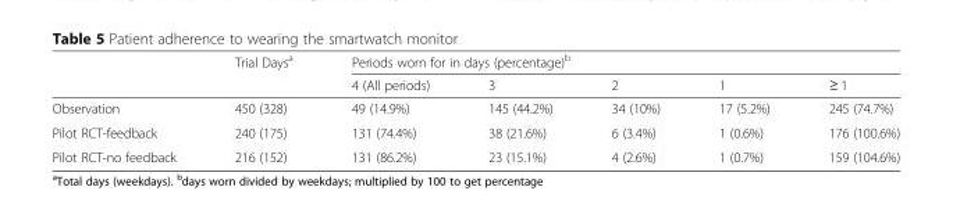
<table><thead><tr><td rowspan="2"></td><td rowspan="2">Trial Days<sup>a</sup></td><td colspan="5">Periods worn for in days (percentage)<sup>b</sup></td></tr><tr><td>4 (All periods)</td><td>3</td><td>2</td><td>1</td><td>≥ 1</td></tr></thead><tbody><tr><td>Observation</td><td>450 (328)</td><td>49 (14.9%)</td><td>145 (44.2%)</td><td>34 (10%)</td><td>17 (5.2%)</td><td>245 (74.7%)</td></tr><tr><td>Pilot RCT-feedback</td><td>240 (175)</td><td>131 (74.4%)</td><td>38 (21.6%)</td><td>6 (3.4%)</td><td>1 (0.6%)</td><td>176 (100.6%)</td></tr><tr><td>Pilot RCT-no feedback</td><td>216 (152)</td><td>131 (86.2%)</td><td>23 (15.1%)</td><td>4 (2.6%)</td><td>1 (0.7%)</td><td>159 (104.6%)</td></tr></tbody></table>